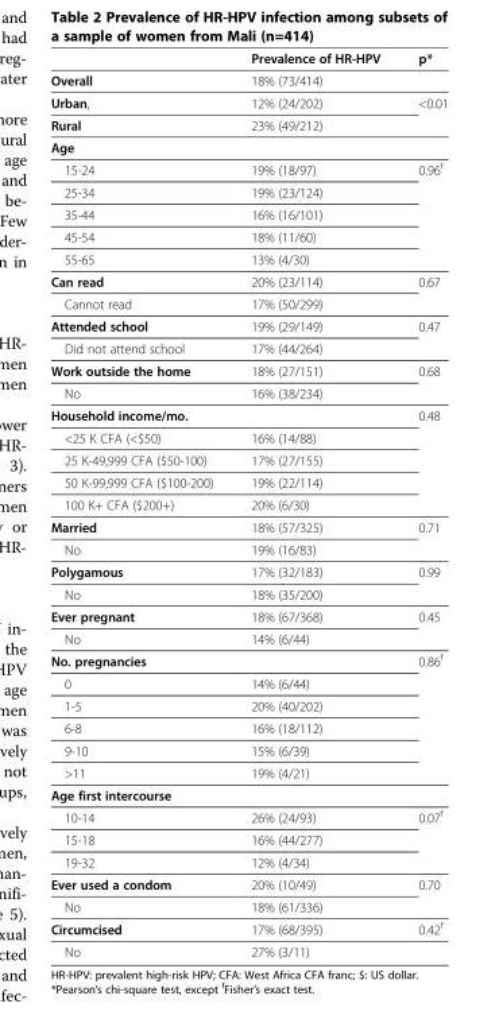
<table><thead><tr><td></td><td>Prevalence of HR-HPV</td><td>p*</td></tr></thead><tbody><tr><td>Overall</td><td>18% (73/414)</td><td></td></tr><tr><td>Urban,</td><td>12% (24/202)</td><td rowspan="2">&lt;0.01</td></tr><tr><td>Rural</td><td>23% (49/212)</td></tr><tr><td colspan="3">Age</td></tr><tr><td>15-24</td><td>19% (18/97)</td><td rowspan="5">0.96<sup>f</sup></td></tr><tr><td>25-34</td><td>19% (23/124)</td></tr><tr><td>35-44</td><td>16% (16/101)</td></tr><tr><td>45-54</td><td>18% (11/60)</td></tr><tr><td>55-65</td><td>13% (4/30)</td></tr><tr><td>Can read</td><td>20% (23/114)</td><td>0.67</td></tr><tr><td>Cannot read</td><td>17% (50/299)</td><td></td></tr><tr><td>Attended school</td><td>19% (29/149)</td><td>0.47</td></tr><tr><td>Did not attend school</td><td>17% (44/264)</td><td></td></tr><tr><td>Work outside the home</td><td>18% (27/151)</td><td rowspan="2">0.68</td></tr><tr><td>No</td><td>16% (38/234)</td></tr><tr><td>Household income/mo.</td><td></td><td>0.48</td></tr><tr><td>&lt;25 K CFA (&lt;$50)</td><td>16% (14/88)</td><td></td></tr><tr><td>25 K-49,999 CFA ($50-100)</td><td>17% (27/155)</td><td></td></tr><tr><td>50 K-99,999 CFA ($100-200)</td><td>19% (22/114)</td><td></td></tr><tr><td>100 K+ CFA ($200+)</td><td>20% (6/30)</td><td></td></tr><tr><td>Married</td><td>18% (57/325)</td><td>0.71</td></tr><tr><td>No</td><td>19% (16/83)</td><td></td></tr><tr><td>Polygamous</td><td>17% (32/183)</td><td>0.99</td></tr><tr><td>No</td><td>18% (35/200)</td><td></td></tr><tr><td>Ever pregnant</td><td>18% (67/368)</td><td>0.45</td></tr><tr><td>No</td><td>14% (6/44)</td><td></td></tr><tr><td>No. pregnancies</td><td></td><td>0.86<sup>f</sup></td></tr><tr><td>0</td><td>14% (6/44)</td><td></td></tr><tr><td>1-5</td><td>20% (40/202)</td><td></td></tr><tr><td>6-8</td><td>16% (18/112)</td><td></td></tr><tr><td>9-10</td><td>15% (6/39)</td><td></td></tr><tr><td>&gt;11</td><td>19% (4/21)</td><td></td></tr><tr><td colspan="3">Age first intercourse</td></tr><tr><td>10-14</td><td>26% (24/93)</td><td rowspan="3">0.07<sup>f</sup></td></tr><tr><td>15-18</td><td>16% (44/277)</td></tr><tr><td>19-32</td><td>12% (4/34)</td></tr><tr><td>Ever used a condom</td><td>20% (10/49)</td><td rowspan="2">0.70</td></tr><tr><td>No</td><td>18% (61/336)</td></tr><tr><td>Circumcised</td><td>17% (68/395)</td><td>0.42<sup>f</sup></td></tr><tr><td>No</td><td>27% (3/11)</td><td></td></tr></tbody></table>